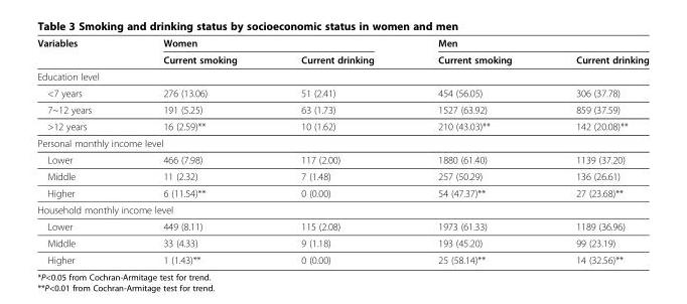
<table><thead><tr><td rowspan="2">Variables</td><td colspan="2">Women</td><td colspan="2">Men</td></tr><tr><td>Current smoking</td><td>Current drinking</td><td>Current smoking</td><td>Current drinking</td></tr></thead><tbody><tr><td colspan="5">Education level</td></tr><tr><td>&lt;7 years</td><td>276 (13.06)</td><td>51 (2.41)</td><td>454 (56.05)</td><td>306 (37.78)</td></tr><tr><td>7~12 years</td><td>191 (5.25)</td><td>63 (1.73)</td><td>1527 (63.92)</td><td>859 (37.59)</td></tr><tr><td>&gt;12 years</td><td>16 (2.59)**</td><td>10 (1.62)</td><td>210 (43.03)**</td><td>142 (20.08)**</td></tr><tr><td colspan="5">Personal monthly income level</td></tr><tr><td>Lower</td><td>466 (7.98)</td><td>117 (2.00)</td><td>1880 (61.40)</td><td>1139 (37.20)</td></tr><tr><td>Middle</td><td>11 (2.32)</td><td>7 (1.48)</td><td>257 (50.29)</td><td>136 (26.61)</td></tr><tr><td>Higher</td><td>6 (11.54)**</td><td>0 (0.00)</td><td>54 (47.37)**</td><td>27 (23.68)**</td></tr><tr><td colspan="5">Household monthly income level</td></tr><tr><td>Lower</td><td>449 (8.11)</td><td>115 (2.08)</td><td>1973 (61.33)</td><td>1189 (36.96)</td></tr><tr><td>Middle</td><td>33 (4.33)</td><td>9 (1.18)</td><td>193 (45.20)</td><td>99 (23.19)</td></tr><tr><td>Higher</td><td>1 (1.43)**</td><td>0 (0.00)</td><td>25 (58.14)**</td><td>14 (32.56)**</td></tr></tbody></table>